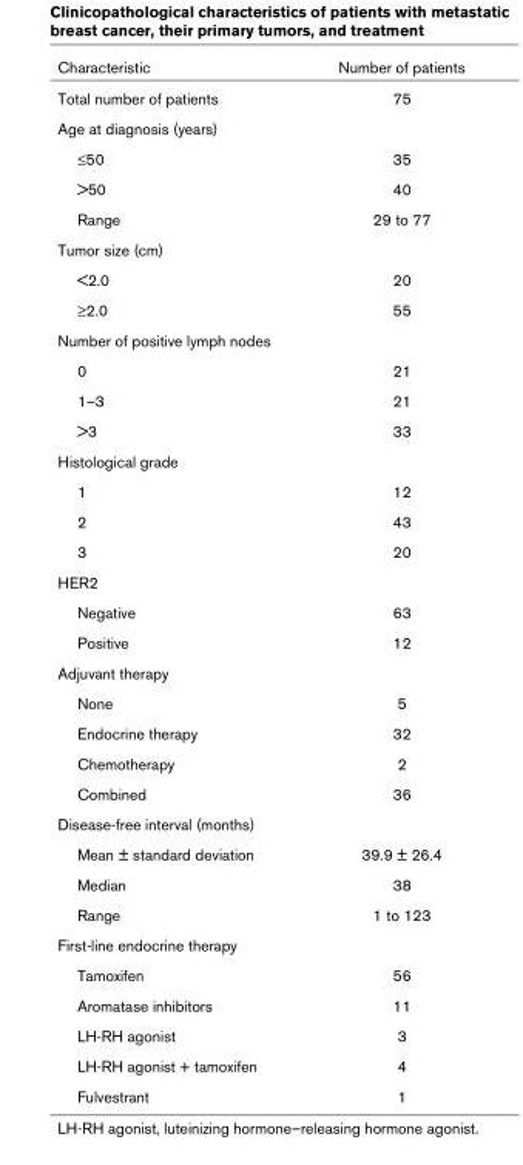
<table><thead><tr><td>Characteristic</td><td>Number of patients</td></tr></thead><tbody><tr><td>Total number of patients</td><td>75</td></tr><tr><td colspan="2">Age at diagnosis (years)</td></tr><tr><td>≤50</td><td>35</td></tr><tr><td>&gt;50</td><td>40</td></tr><tr><td>Range</td><td>29 to 77</td></tr><tr><td colspan="2">Tumor size (cm)</td></tr><tr><td>&lt;2.0</td><td>20</td></tr><tr><td>≥2.0</td><td>55</td></tr><tr><td colspan="2">Number of positive lymph nodes</td></tr><tr><td>0</td><td>21</td></tr><tr><td>1–3</td><td>21</td></tr><tr><td>&gt;3</td><td>33</td></tr><tr><td colspan="2">Histological grade</td></tr><tr><td>1</td><td>12</td></tr><tr><td>2</td><td>43</td></tr><tr><td>3</td><td>20</td></tr><tr><td colspan="2">HER2</td></tr><tr><td>Negative</td><td>63</td></tr><tr><td>Positive</td><td>12</td></tr><tr><td colspan="2">Adjuvant therapy</td></tr><tr><td>None</td><td>5</td></tr><tr><td>Endocrine therapy</td><td>32</td></tr><tr><td>Chemotherapy</td><td>2</td></tr><tr><td>Combined</td><td>36</td></tr><tr><td colspan="2">Disease-free interval (months)</td></tr><tr><td>Mean ± standard deviation</td><td>39.9 ± 26.4</td></tr><tr><td>Median</td><td>38</td></tr><tr><td>Range</td><td>1 to 123</td></tr><tr><td colspan="2">First-line endocrine therapy</td></tr><tr><td>Tamoxifen</td><td>56</td></tr><tr><td>Aromatase inhibitors</td><td>11</td></tr><tr><td>LH-RH agonist</td><td>3</td></tr><tr><td>LH-RH agonist + tamoxifen</td><td>4</td></tr><tr><td>Fulvestrant</td><td>1</td></tr></tbody></table>